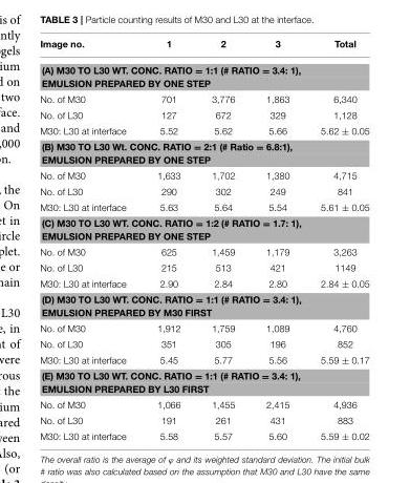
<table><thead><tr><td>Image no.</td><td>1</td><td>2</td><td>3</td><td>Total</td></tr></thead><tbody><tr><td colspan="5">(A) M30 TO L30 WT. CONC. RATIO = 1:1 (# RATIO = 3.4: 1),</td></tr><tr><td colspan="5">EMULSION PREPARED BY ONE STEP</td></tr><tr><td>No. of M30</td><td>701</td><td>3,776</td><td>1,863</td><td>6,340</td></tr><tr><td>No. of L30</td><td>127</td><td>672</td><td>329</td><td>1,128</td></tr><tr><td>M30: L30 at interface</td><td>5.52</td><td>5.62</td><td>5.66</td><td>5.62 ± 0.05</td></tr><tr><td colspan="5">(B) M30 TO L30 Wt. CONC. RATIO = 2:1 (# Ratio = 6.8:1),</td></tr><tr><td colspan="5">EMULSION PREPARED BY ONE STEP</td></tr><tr><td>No. of M30</td><td>1,633</td><td>1,702</td><td>1,380</td><td>4,715</td></tr><tr><td>No. of L30</td><td>290</td><td>302</td><td>249</td><td>841</td></tr><tr><td>M30: L30 at interface</td><td>5.63</td><td>5.64</td><td>5.54</td><td>5.61 ± 0.05</td></tr><tr><td colspan="5">(C) M30 TO L30 WT. CONC. RATIO = 1:2 (# RATIO = 1.7: 1),</td></tr><tr><td colspan="5">EMULSION PREPARED BY ONE STEP</td></tr><tr><td>No. of M30</td><td>625</td><td>1,459</td><td>1,179</td><td>3,263</td></tr><tr><td>No. of L30</td><td>215</td><td>513</td><td>421</td><td>1149</td></tr><tr><td>M30: L30 at interface</td><td>2.90</td><td>2.84</td><td>2.80</td><td>2.84 ± 0.05</td></tr><tr><td colspan="5">(D) M30 TO L30 WT. CONC. RATIO = 1:1 (# RATIO = 3.4: 1),</td></tr><tr><td colspan="5">EMULSION PREPARED BY M30 FIRST</td></tr><tr><td>No. of M30</td><td>1,912</td><td>1,759</td><td>1,089</td><td>4,760</td></tr><tr><td>No. of L30</td><td>351</td><td>305</td><td>196</td><td>852</td></tr><tr><td>M30: L30 at interface</td><td>5.45</td><td>5.77</td><td>5.56</td><td>5.59 ± 0.17</td></tr><tr><td colspan="5">(E) M30 TO L30 WT. CONC. RATIO = 1:1 (# RATIO = 3.4: 1),</td></tr><tr><td colspan="5">EMULSION PREPARED BY L30 FIRST</td></tr><tr><td>No. of M30</td><td>1,066</td><td>1,455</td><td>2,415</td><td>4,936</td></tr><tr><td>No. of L30</td><td>191</td><td>261</td><td>431</td><td>883</td></tr><tr><td>M30: L30 at interface</td><td>5.58</td><td>5.57</td><td>5.60</td><td>5.59 ± 0.02</td></tr></tbody></table>